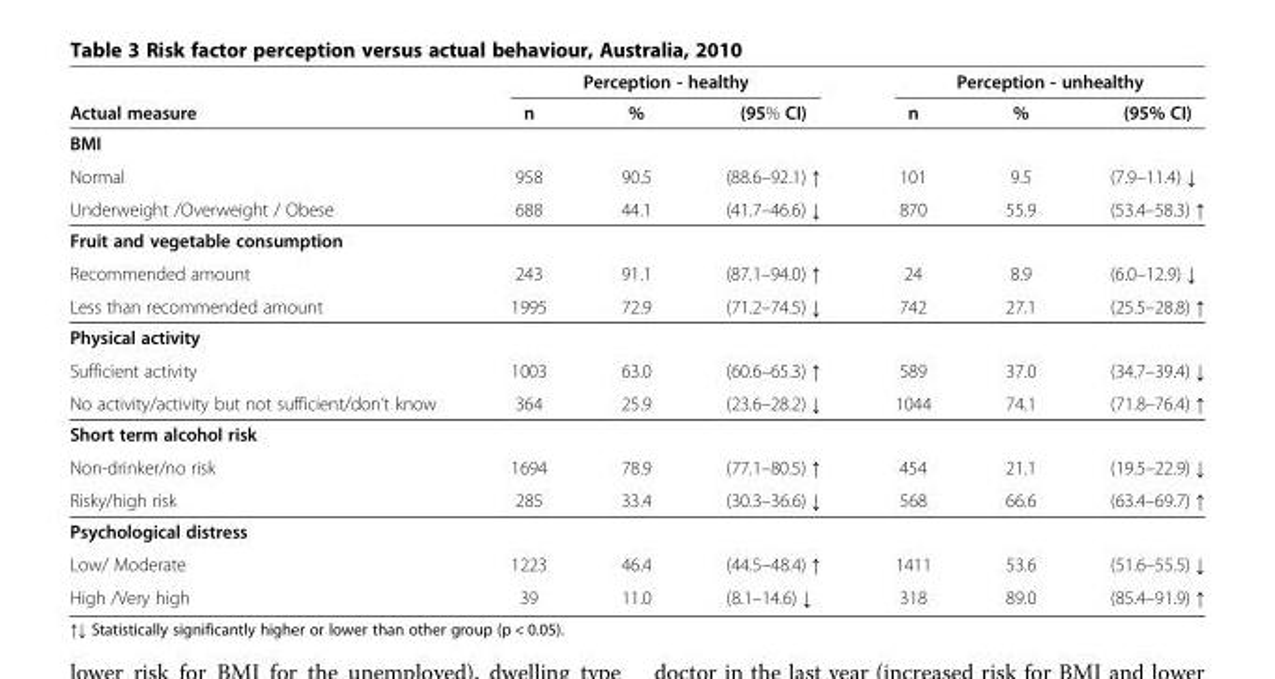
<table><thead><tr><td rowspan="2">Actual measure</td><td colspan="3">Perception - healthy</td><td colspan="3">Perception - unhealthy</td></tr><tr><td>n</td><td>%</td><td>(95% CI)</td><td>n</td><td>%</td><td>(95% CI)</td></tr></thead><tbody><tr><td colspan="7">BMI</td></tr><tr><td>Normal</td><td>958</td><td>90.5</td><td>(88.6–92.1) ↑</td><td>101</td><td>9.5</td><td>(7.9–11.4) ↓</td></tr><tr><td>Underweight /Overweight / Obese</td><td>688</td><td>44.1</td><td>(41.7–46.6) ↓</td><td>870</td><td>55.9</td><td>(53.4–58.3) ↑</td></tr><tr><td colspan="7">Fruit and vegetable consumption</td></tr><tr><td>Recommended amount</td><td>243</td><td>91.1</td><td>(87.1–94.0) ↑</td><td>24</td><td>8.9</td><td>(6.0–12.9) ↓</td></tr><tr><td>Less than recommended amount</td><td>1995</td><td>72.9</td><td>(71.2–74.5) ↓</td><td>742</td><td>27.1</td><td>(25.5–28.8) ↑</td></tr><tr><td colspan="7">Physical activity</td></tr><tr><td>Sufficient activity</td><td>1003</td><td>63.0</td><td>(60.6–65.3) ↑</td><td>589</td><td>37.0</td><td>(34.7–39.4) ↓</td></tr><tr><td>No activity/activity but not sufficient/don’t know</td><td>364</td><td>25.9</td><td>(23.6–28.2) ↓</td><td>1044</td><td>74.1</td><td>(71.8–76.4) ↑</td></tr><tr><td colspan="7">Short term alcohol risk</td></tr><tr><td>Non-drinker/no risk</td><td>1694</td><td>78.9</td><td>(77.1–80.5) ↑</td><td>454</td><td>21.1</td><td>(19.5–22.9) ↓</td></tr><tr><td>Risky/high risk</td><td>285</td><td>33.4</td><td>(30.3–36.6) ↓</td><td>568</td><td>66.6</td><td>(63.4–69.7) ↑</td></tr><tr><td colspan="7">Psychological distress</td></tr><tr><td>Low/ Moderate</td><td>1223</td><td>46.4</td><td>(44.5–48.4) ↑</td><td>1411</td><td>53.6</td><td>(51.6–55.5) ↓</td></tr><tr><td>High /Very high</td><td>39</td><td>11.0</td><td>(8.1–14.6) ↓</td><td>318</td><td>89.0</td><td>(85.4–91.9) ↑</td></tr></tbody></table>